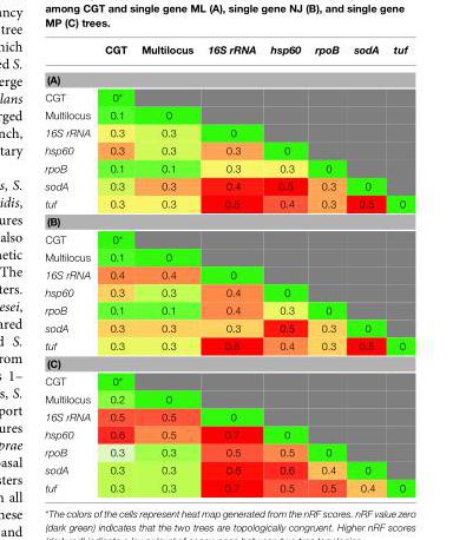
<table><thead><tr><td></td><td>CGT</td><td>Multilocus</td><td>16S rRNA</td><td>hsp60</td><td>rpoB</td><td>sodA</td><td>tuf</td></tr></thead><tbody><tr><td colspan="8">(A)</td></tr><tr><td>CGT</td><td>0*</td><td></td><td></td><td></td><td></td><td></td><td></td></tr><tr><td>Multilocus</td><td>0.1</td><td>0</td><td></td><td></td><td></td><td></td><td></td></tr><tr><td>16S rRNA</td><td>0.3</td><td>0.3</td><td>0</td><td></td><td></td><td></td><td></td></tr><tr><td>hsp60</td><td>0.3</td><td>0.3</td><td>0.3</td><td>0</td><td></td><td></td><td></td></tr><tr><td>rpoB</td><td>0.1</td><td>0.1</td><td>0.3</td><td>0.3</td><td>0</td><td></td><td></td></tr><tr><td>sodA</td><td>0.3</td><td>0.3</td><td>0.4</td><td>0.5</td><td>0.3</td><td>0</td><td></td></tr><tr><td>tuf</td><td>0.3</td><td>0.3</td><td>0.5</td><td>0.4</td><td>0.3</td><td>0.5</td><td>0</td></tr><tr><td colspan="8">(B)</td></tr><tr><td>CGT</td><td>0*</td><td></td><td></td><td></td><td></td><td></td><td></td></tr><tr><td>Multilocus</td><td>0.1</td><td>0</td><td></td><td></td><td></td><td></td><td></td></tr><tr><td>16S rRNA</td><td>0.4</td><td>0.4</td><td>0</td><td></td><td></td><td></td><td></td></tr><tr><td>hsp60</td><td>0.3</td><td>0.3</td><td>0.4</td><td>0</td><td></td><td></td><td></td></tr><tr><td>rpoB</td><td>0.1</td><td>0.1</td><td>0.4</td><td>0.3</td><td>0</td><td></td><td></td></tr><tr><td>sodA</td><td>0.3</td><td>0.3</td><td>0.3</td><td>0.5</td><td>0.3</td><td>0</td><td></td></tr><tr><td>tuf</td><td>0.3</td><td>0.3</td><td>0.5</td><td>0.4</td><td>0.3</td><td>0.5</td><td>0</td></tr><tr><td colspan="8">(C)</td></tr><tr><td>CGT</td><td>0*</td><td></td><td></td><td></td><td></td><td></td><td></td></tr><tr><td>Multilocus</td><td>0.2</td><td>0</td><td></td><td></td><td></td><td></td><td></td></tr><tr><td>16S rRNA</td><td>0.5</td><td>0.5</td><td>0</td><td></td><td></td><td></td><td></td></tr><tr><td>hsp60</td><td>0.6</td><td>0.5</td><td>0.7</td><td>0</td><td></td><td></td><td></td></tr><tr><td>rpoB</td><td>0.3</td><td>0.3</td><td>0.5</td><td>0.5</td><td>0</td><td></td><td></td></tr><tr><td>sodA</td><td>0.3</td><td>0.3</td><td>0.6</td><td>0.6</td><td>0.4</td><td>0</td><td></td></tr><tr><td>tuf</td><td>0.3</td><td>0.3</td><td>0.7</td><td>0.5</td><td>0.5</td><td>0.4</td><td>0</td></tr></tbody></table>